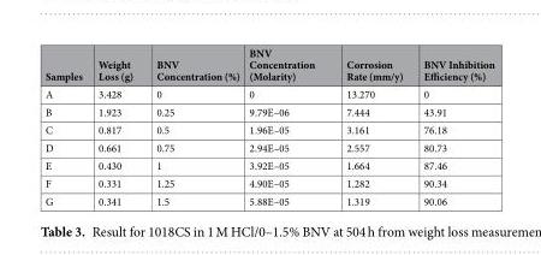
<table><thead><tr><td>Samples</td><td>Weight Loss (g)</td><td>BNV Concentration (%)</td><td>BNV Concentration (Molarity)</td><td>Corrosion Rate (mm/y)</td><td>BNV Inhibition Efficiency (%)</td></tr></thead><tbody><tr><td>A</td><td>3.428</td><td>0</td><td>0</td><td>13.270</td><td>0</td></tr><tr><td>B</td><td>1.923</td><td>0.25</td><td>9.79E–06</td><td>7.444</td><td>43.91</td></tr><tr><td>C</td><td>0.817</td><td>0.5</td><td>1.96E–05</td><td>3.161</td><td>76.18</td></tr><tr><td>D</td><td>0.661</td><td>0.75</td><td>2.94E–05</td><td>2.557</td><td>80.73</td></tr><tr><td>E</td><td>0.430</td><td>1</td><td>3.92E–05</td><td>1.664</td><td>87.46</td></tr><tr><td>F</td><td>0.331</td><td>1.25</td><td>4.90E–05</td><td>1.282</td><td>90.34</td></tr><tr><td>G</td><td>0.341</td><td>1.5</td><td>5.88E–05</td><td>1.319</td><td>90.06</td></tr></tbody></table>